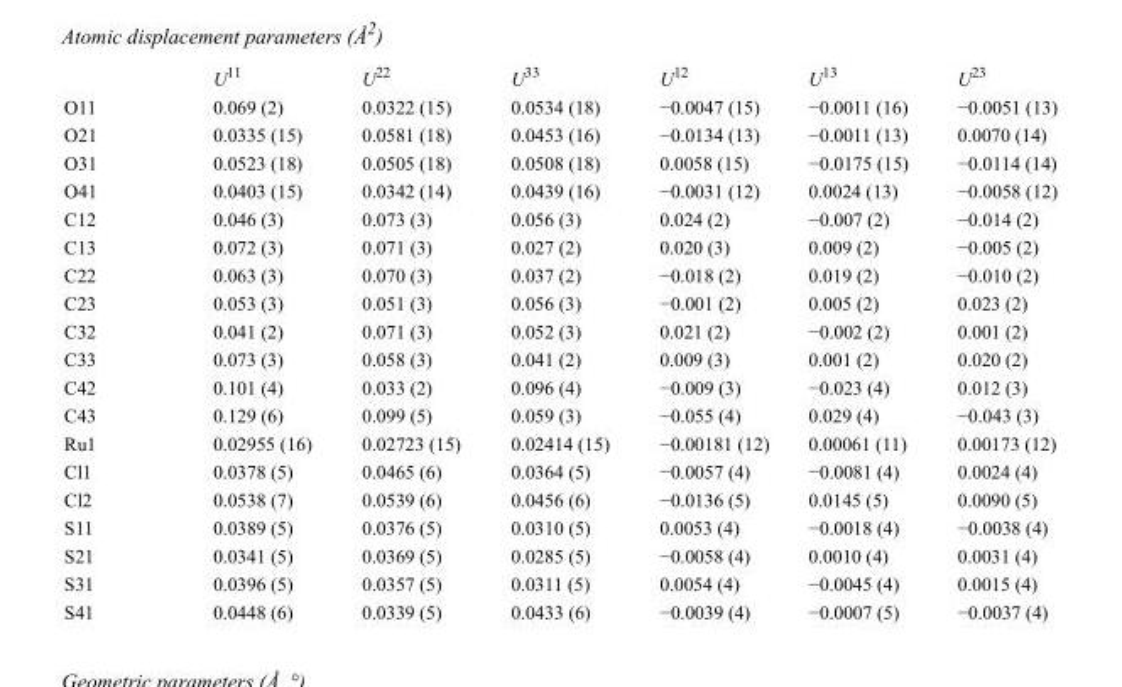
<table><thead><tr><td></td><td>U<sup>11</sup></td><td>U<sup>22</sup></td><td>U<sup>33</sup></td><td>U<sup>12</sup></td><td>U<sup>13</sup></td><td>U<sup>23</sup></td></tr></thead><tbody><tr><td>O11</td><td>0.069 (2)</td><td>0.0322 (15)</td><td>0.0534 (18)</td><td>−0.0047 (15)</td><td>−0.0011 (16)</td><td>−0.0051 (13)</td></tr><tr><td>O21</td><td>0.0335 (15)</td><td>0.0581 (18)</td><td>0.0453 (16)</td><td>−0.0134 (13)</td><td>−0.0011 (13)</td><td>0.0070 (14)</td></tr><tr><td>O31</td><td>0.0523 (18)</td><td>0.0505 (18)</td><td>0.0508 (18)</td><td>0.0058 (15)</td><td>−0.0175 (15)</td><td>−0.0114 (14)</td></tr><tr><td>O41</td><td>0.0403 (15)</td><td>0.0342 (14)</td><td>0.0439 (16)</td><td>−0.0031 (12)</td><td>0.0024 (13)</td><td>−0.0058 (12)</td></tr><tr><td>C12</td><td>0.046 (3)</td><td>0.073 (3)</td><td>0.056 (3)</td><td>0.024 (2)</td><td>−0.007 (2)</td><td>−0.014 (2)</td></tr><tr><td>C13</td><td>0.072 (3)</td><td>0.071 (3)</td><td>0.027 (2)</td><td>0.020 (3)</td><td>0.009 (2)</td><td>−0.005 (2)</td></tr><tr><td>C22</td><td>0.063 (3)</td><td>0.070 (3)</td><td>0.037 (2)</td><td>−0.018 (2)</td><td>0.019 (2)</td><td>−0.010 (2)</td></tr><tr><td>C23</td><td>0.053 (3)</td><td>0.051 (3)</td><td>0.056 (3)</td><td>−0.001 (2)</td><td>0.005 (2)</td><td>0.023 (2)</td></tr><tr><td>C32</td><td>0.041 (2)</td><td>0.071 (3)</td><td>0.052 (3)</td><td>0.021 (2)</td><td>−0.002 (2)</td><td>0.001 (2)</td></tr><tr><td>C33</td><td>0.073 (3)</td><td>0.058 (3)</td><td>0.041 (2)</td><td>0.009 (3)</td><td>0.001 (2)</td><td>0.020 (2)</td></tr><tr><td>C42</td><td>0.101 (4)</td><td>0.033 (2)</td><td>0.096 (4)</td><td>−0.009 (3)</td><td>−0.023 (4)</td><td>0.012 (3)</td></tr><tr><td>C43</td><td>0.129 (6)</td><td>0.099 (5)</td><td>0.059 (3)</td><td>−0.055 (4)</td><td>0.029 (4)</td><td>−0.043 (3)</td></tr><tr><td>Ru1</td><td>0.02955 (16)</td><td>0.02723 (15)</td><td>0.02414 (15)</td><td>−0.00181 (12)</td><td>0.00061 (11)</td><td>0.00173 (12)</td></tr><tr><td>Cl1</td><td>0.0378 (5)</td><td>0.0465 (6)</td><td>0.0364 (5)</td><td>−0.0057 (4)</td><td>−0.0081 (4)</td><td>0.0024 (4)</td></tr><tr><td>Cl2</td><td>0.0538 (7)</td><td>0.0539 (6)</td><td>0.0456 (6)</td><td>−0.0136 (5)</td><td>0.0145 (5)</td><td>0.0090 (5)</td></tr><tr><td>S11</td><td>0.0389 (5)</td><td>0.0376 (5)</td><td>0.0310 (5)</td><td>0.0053 (4)</td><td>−0.0018 (4)</td><td>−0.0038 (4)</td></tr><tr><td>S21</td><td>0.0341 (5)</td><td>0.0369 (5)</td><td>0.0285 (5)</td><td>−0.0058 (4)</td><td>0.0010 (4)</td><td>0.0031 (4)</td></tr><tr><td>S31</td><td>0.0396 (5)</td><td>0.0357 (5)</td><td>0.0311 (5)</td><td>0.0054 (4)</td><td>−0.0045 (4)</td><td>0.0015 (4)</td></tr><tr><td>S41</td><td>0.0448 (6)</td><td>0.0339 (5)</td><td>0.0433 (6)</td><td>−0.0039 (4)</td><td>−0.0007 (5)</td><td>−0.0037 (4)</td></tr></tbody></table>